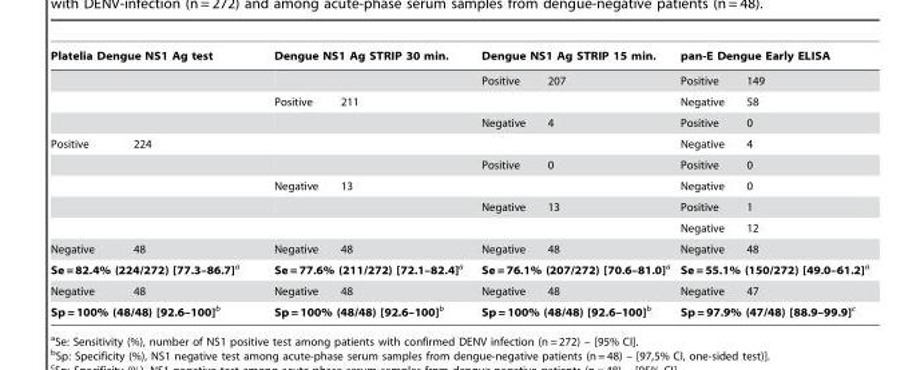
<table><thead><tr><td colspan="2">Platelia Dengue NS1 Ag test</td><td colspan="2">Dengue NS1 Ag STRIP 30 min.</td><td colspan="2">Dengue NS1 Ag STRIP 15 min.</td><td colspan="2">pan-E Dengue Early ELISA</td></tr><tr><td></td><td></td><td></td><td></td><td>Positive</td><td>207</td><td>Positive</td><td>149</td></tr></thead><tbody><tr><td></td><td></td><td>Positive</td><td>211</td><td></td><td></td><td>Negative</td><td>58</td></tr><tr><td></td><td></td><td></td><td></td><td>Negative</td><td>4</td><td>Positive</td><td>0</td></tr><tr><td rowspan="5">Positive</td><td>224</td><td></td><td></td><td></td><td></td><td>Negative</td><td>4</td></tr><tr><td></td><td></td><td></td><td>Positive</td><td>0</td><td>Positive</td><td>0</td></tr><tr><td></td><td>Negative</td><td>13</td><td></td><td></td><td>Negative</td><td>0</td></tr><tr><td></td><td></td><td></td><td>Negative</td><td>13</td><td>Positive</td><td>1</td></tr><tr><td></td><td></td><td></td><td></td><td></td><td>Negative</td><td>12</td></tr><tr><td>Negative</td><td>48</td><td>Negative</td><td>48</td><td>Negative</td><td>48</td><td>Negative</td><td>48</td></tr><tr><td colspan="2">Se = 82.4% (224/272) [77.3–86.7]a</td><td colspan="2">Se = 77.6% (211/272) [72.1–82.4]a</td><td colspan="2">Se = 76.1% (207/272) [70.6–81.0]a</td><td colspan="2">Se = 55.1% (150/272) [49.0–61.2]a</td></tr><tr><td>Negative</td><td>48</td><td>Negative</td><td>48</td><td>Negative</td><td>48</td><td>Negative</td><td>47</td></tr><tr><td colspan="2">Sp = 100% (48/48) [92.6–100]b</td><td colspan="2">Sp = 100% (48/48) [92.6–100]b</td><td colspan="2">Sp = 100% (48/48) [92.6–100]b</td><td colspan="2">Sp = 97.9% (47/48) [88.9–99.9]c</td></tr></tbody></table>